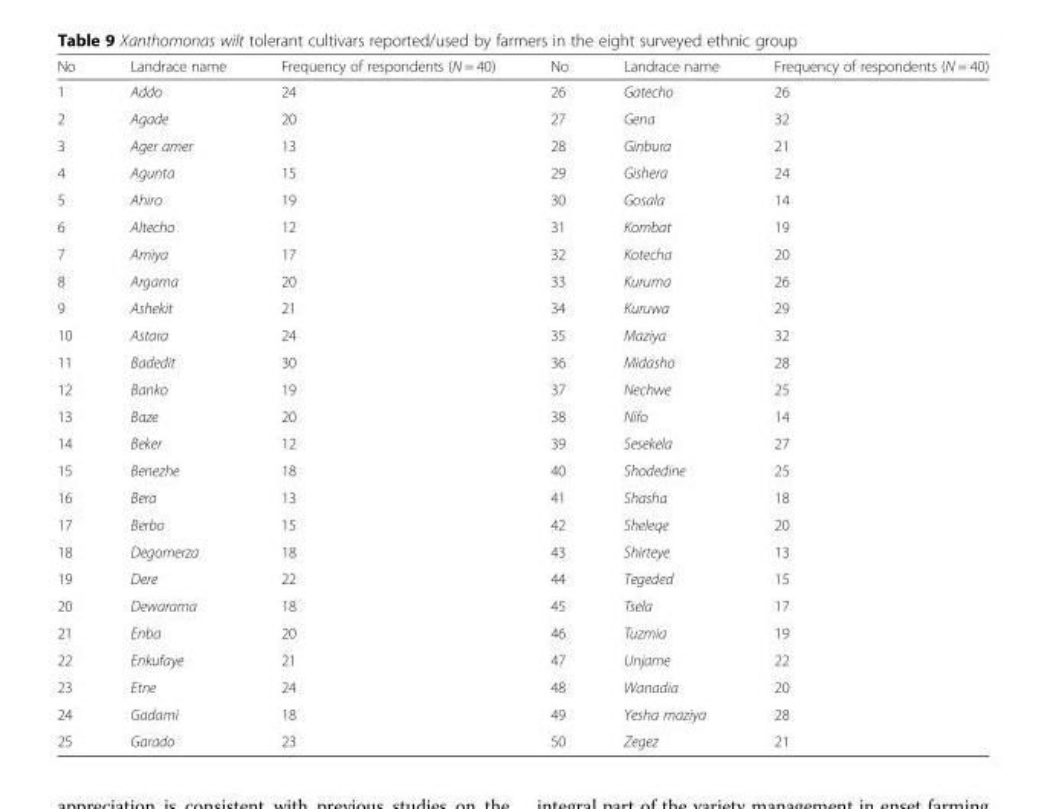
<table><thead><tr><td>No</td><td>Landrace name</td><td>Frequency of respondents (N = 40)</td><td>No</td><td>Landrace name</td><td>Frequency of respondents (N = 40)</td></tr></thead><tbody><tr><td>1</td><td>Addo</td><td>24</td><td>26</td><td>Gatecho</td><td>26</td></tr><tr><td>2</td><td>Agade</td><td>20</td><td>27</td><td>Gena</td><td>32</td></tr><tr><td>3</td><td>Ager amer</td><td>13</td><td>28</td><td>Ginbura</td><td>21</td></tr><tr><td>4</td><td>Agunta</td><td>15</td><td>29</td><td>Gishera</td><td>24</td></tr><tr><td>5</td><td>Ahiro</td><td>19</td><td>30</td><td>Gosala</td><td>14</td></tr><tr><td>6</td><td>Altecho</td><td>12</td><td>31</td><td>Kombat</td><td>19</td></tr><tr><td>7</td><td>Amiya</td><td>17</td><td>32</td><td>Kotecha</td><td>20</td></tr><tr><td>8</td><td>Argama</td><td>20</td><td>33</td><td>Kuruma</td><td>26</td></tr><tr><td>9</td><td>Ashekit</td><td>21</td><td>34</td><td>Kuruwa</td><td>29</td></tr><tr><td>10</td><td>Astara</td><td>24</td><td>35</td><td>Maziya</td><td>32</td></tr><tr><td>11</td><td>Badedit</td><td>30</td><td>36</td><td>Midasho</td><td>28</td></tr><tr><td>12</td><td>Banko</td><td>19</td><td>37</td><td>Nechwe</td><td>25</td></tr><tr><td>13</td><td>Baze</td><td>20</td><td>38</td><td>Nifo</td><td>14</td></tr><tr><td>14</td><td>Beker</td><td>12</td><td>39</td><td>Sesekela</td><td>27</td></tr><tr><td>15</td><td>Benezhe</td><td>18</td><td>40</td><td>Shodedine</td><td>25</td></tr><tr><td>16</td><td>Bera</td><td>13</td><td>41</td><td>Shasha</td><td>18</td></tr><tr><td>17</td><td>Berbo</td><td>15</td><td>42</td><td>Sheleqe</td><td>20</td></tr><tr><td>18</td><td>Degomerza</td><td>18</td><td>43</td><td>Shirteye</td><td>13</td></tr><tr><td>19</td><td>Dere</td><td>22</td><td>44</td><td>Tegeded</td><td>15</td></tr><tr><td>20</td><td>Dewarama</td><td>18</td><td>45</td><td>Tsela</td><td>17</td></tr><tr><td>21</td><td>Enba</td><td>20</td><td>46</td><td>Tuzmia</td><td>19</td></tr><tr><td>22</td><td>Enkufaye</td><td>21</td><td>47</td><td>Unjame</td><td>22</td></tr><tr><td>23</td><td>Etne</td><td>24</td><td>48</td><td>Wanadia</td><td>20</td></tr><tr><td>24</td><td>Gadami</td><td>18</td><td>49</td><td>Yesha maziya</td><td>28</td></tr><tr><td>25</td><td>Garado</td><td>23</td><td>50</td><td>Zegez</td><td>21</td></tr></tbody></table>